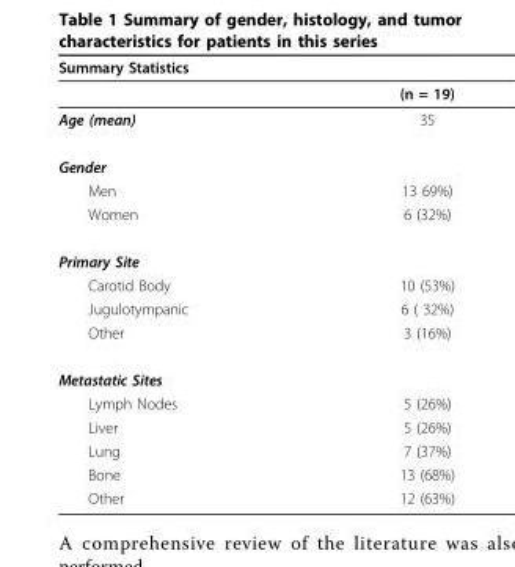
<table><thead><tr><td>Summary Statistics</td><td></td></tr></thead><tbody><tr><td></td><td>(n = 19)</td></tr><tr><td>Age (mean)</td><td>35</td></tr><tr><td colspan="2">Gender</td></tr><tr><td>Men</td><td>13 69%)</td></tr><tr><td>Women</td><td>6 (32%)</td></tr><tr><td colspan="2">Primary Site</td></tr><tr><td>Carotid Body</td><td>10 (53%)</td></tr><tr><td>Jugulotympanic</td><td>6 ( 32%)</td></tr><tr><td>Other</td><td>3 (16%)</td></tr><tr><td colspan="2">Metastatic Sites</td></tr><tr><td>Lymph Nodes</td><td>5 (26%)</td></tr><tr><td>Liver</td><td>5 (26%)</td></tr><tr><td>Lung</td><td>7 (37%)</td></tr><tr><td>Bone</td><td>13 (68%)</td></tr><tr><td>Other</td><td>12 (63%)</td></tr></tbody></table>